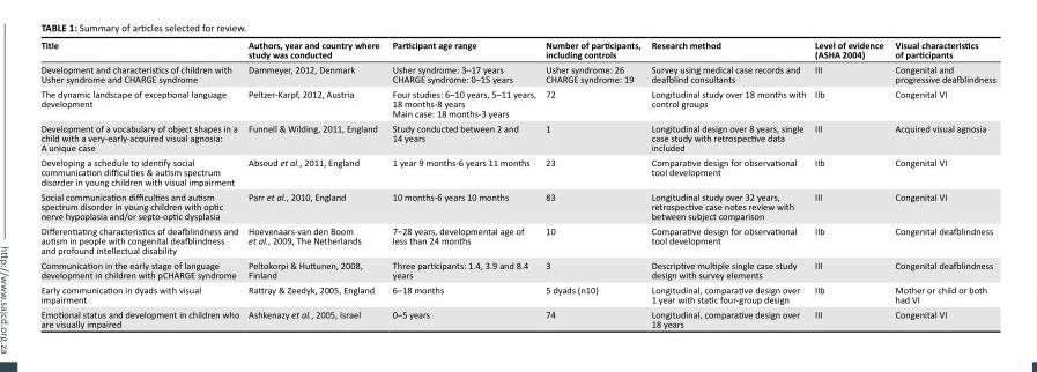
<table><thead><tr><td>Title</td><td>Authors, year and country where study was conducted</td><td>Participant age range</td><td>Number of participants, including controls</td><td>Research method</td><td>Level of evidence (ASHA 2004)</td><td>Visual characteristics of participants</td></tr></thead><tbody><tr><td>Development and characteristics of children with Usher syndrome and CHARGE syndrome</td><td>Dammeyer, 2012, Denmark</td><td>Usher syndrome: 3–17 years CHARGE syndrome: 0–15 years</td><td>Usher syndrome: 26 CHARGE syndrome: 19</td><td>Survey using medical case records and deafblind consultants</td><td>III</td><td>Congenital and progressive deafblindness</td></tr><tr><td>The dynamic landscape of exceptional language development</td><td>Peltzer-Karpf, 2012, Austria</td><td>Four studies: 6–10 years, 5–11 years, 18 months-8 years Main case: 18 months-3 years</td><td>72</td><td>Longitudinal study over 18 months with control groups</td><td>IIb</td><td>Congenital VI</td></tr><tr><td>Development of a vocabulary of object shapes in a child with a very-early-acquired visual agnosia: A unique case</td><td>Funnell &amp; Wilding, 2011, England</td><td>Study conducted between 2 and 14 years</td><td>1</td><td>Longitudinal design over 8 years, single case study with retrospective data included</td><td>III</td><td>Acquired visual agnosia</td></tr><tr><td>Developing a schedule to identify social communication difficulties &amp; autism spectrum disorder in young children with visual impairment</td><td>Absoud et al., 2011, England</td><td>1 year 9 months-6 years 11 months</td><td>23</td><td>Comparative design for observational tool development</td><td>IIb</td><td>Congenital VI</td></tr><tr><td>Social communication difficulties and autism spectrum disorder in young children with optic nerve hypoplasia and/or septo-optic dysplasia</td><td>Parr et al., 2010, England</td><td>10 months-6 years 10 months</td><td>83</td><td>Longitudinal study over 32 years, retrospective case notes review with between subject comparison</td><td>III</td><td>Congenital VI</td></tr><tr><td>Differentiating characteristics of deafblindness and autism in people with congenital deafblindness and profound intellectual disability</td><td>Hoevenaars-van den Boom et al., 2009, The Netherlands</td><td>7–28 years, developmental age of less than 24 months</td><td>10</td><td>Comparative design for observational tool development</td><td>IIb</td><td>Congenital deafblindness</td></tr><tr><td>Communication in the early stage of language development in children with pCHARGE syndrome</td><td>Peltokorpi &amp; Huttunen, 2008, Finland</td><td>Three participants: 1.4, 3.9 and 8.4 years</td><td>3</td><td>Descriptive multiple single case study design with survey elements</td><td>III</td><td>Congenital deafblindness</td></tr><tr><td>Early communication in dyads with visual impairment</td><td>Rattray &amp; Zeedyk, 2005, England</td><td>6–18 months</td><td>5 dyads (n10)</td><td>Longitudinal, comparative design over 1 year with static four-group design</td><td>IIb</td><td>Mother or child or both had VI</td></tr><tr><td>Emotional status and development in children who are visually impaired</td><td>Ashkenazy et al., 2005, Israel</td><td>0–5 years</td><td>74</td><td>Longitudinal, comparative design over 18 years</td><td>III</td><td>Congenital VI</td></tr></tbody></table>